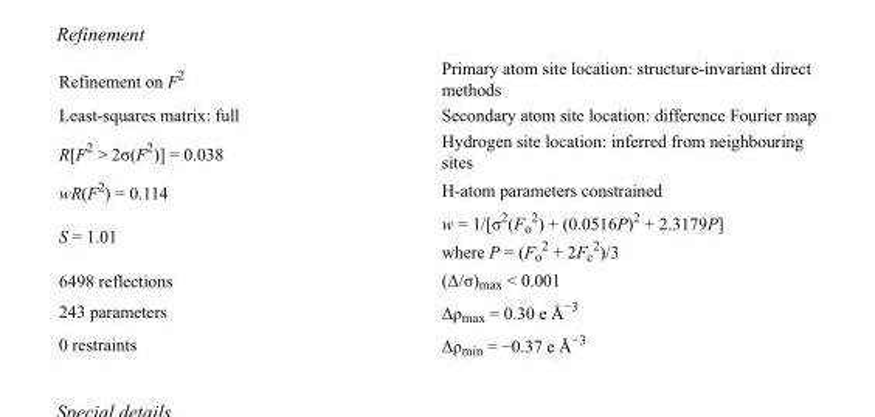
<table><tbody><tr><td>Refinement on F<sup>2</sup></td><td>Primary atom site location: structure-invariant direct methods</td></tr><tr><td>Least-squares matrix: full</td><td>Secondary atom site location: difference Fourier map</td></tr><tr><td>R[F<sup>2</sup> &gt; 2σ(F<sup>2</sup>)] = 0.038</td><td>Hydrogen site location: inferred from neighbouring sites</td></tr><tr><td>wR(F<sup>2</sup>) = 0.114</td><td>H-atom parameters constrained</td></tr><tr><td>S = 1.01</td><td>w = 1/[σ<sup>2</sup>(F<sub>o</sub> <sup>2</sup>) + (0.0516P)<sup>2</sup> + 2.3179P] where P = (F<sub>o</sub> <sup>2</sup> + 2F<sub>c</sub> <sup>2</sup>)/3</td></tr><tr><td>6498 reflections</td><td>(Δ/σ)<sub>max</sub> &lt; 0.001</td></tr><tr><td>243 parameters</td><td>Δρ<sub>max</sub> = 0.30 e Å<sup>−3</sup></td></tr><tr><td>0 restraints</td><td>Δρ<sub>min</sub> = −0.37 e Å<sup>−3</sup></td></tr></tbody></table>